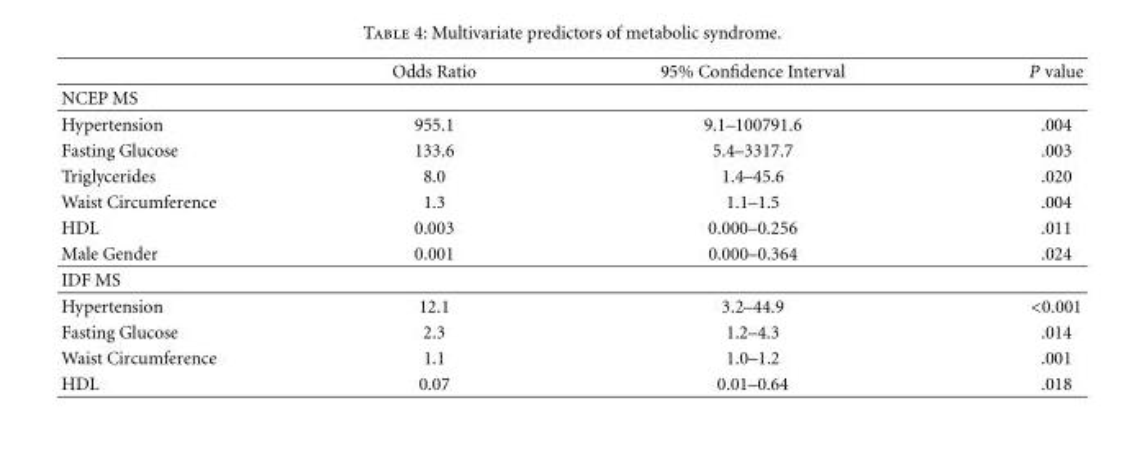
<table><thead><tr><td></td><td>Odds Ratio</td><td>95% Confidence Interval</td><td>P value</td></tr></thead><tbody><tr><td colspan="4">NCEP MS</td></tr><tr><td>Hypertension</td><td>955.1</td><td>9.1–100791.6</td><td>.004</td></tr><tr><td>Fasting Glucose</td><td>133.6</td><td>5.4–3317.7</td><td>.003</td></tr><tr><td>Triglycerides</td><td>8.0</td><td>1.4–45.6</td><td>.020</td></tr><tr><td>Waist Circumference</td><td>1.3</td><td>1.1–1.5</td><td>.004</td></tr><tr><td>HDL</td><td>0.003</td><td>0.000–0.256</td><td>.011</td></tr><tr><td>Male Gender</td><td>0.001</td><td>0.000–0.364</td><td>.024</td></tr><tr><td colspan="4">IDF MS</td></tr><tr><td>Hypertension</td><td>12.1</td><td>3.2–44.9</td><td>&lt;0.001</td></tr><tr><td>Fasting Glucose</td><td>2.3</td><td>1.2–4.3</td><td>.014</td></tr><tr><td>Waist Circumference</td><td>1.1</td><td>1.0–1.2</td><td>.001</td></tr><tr><td>HDL</td><td>0.07</td><td>0.01–0.64</td><td>.018</td></tr></tbody></table>